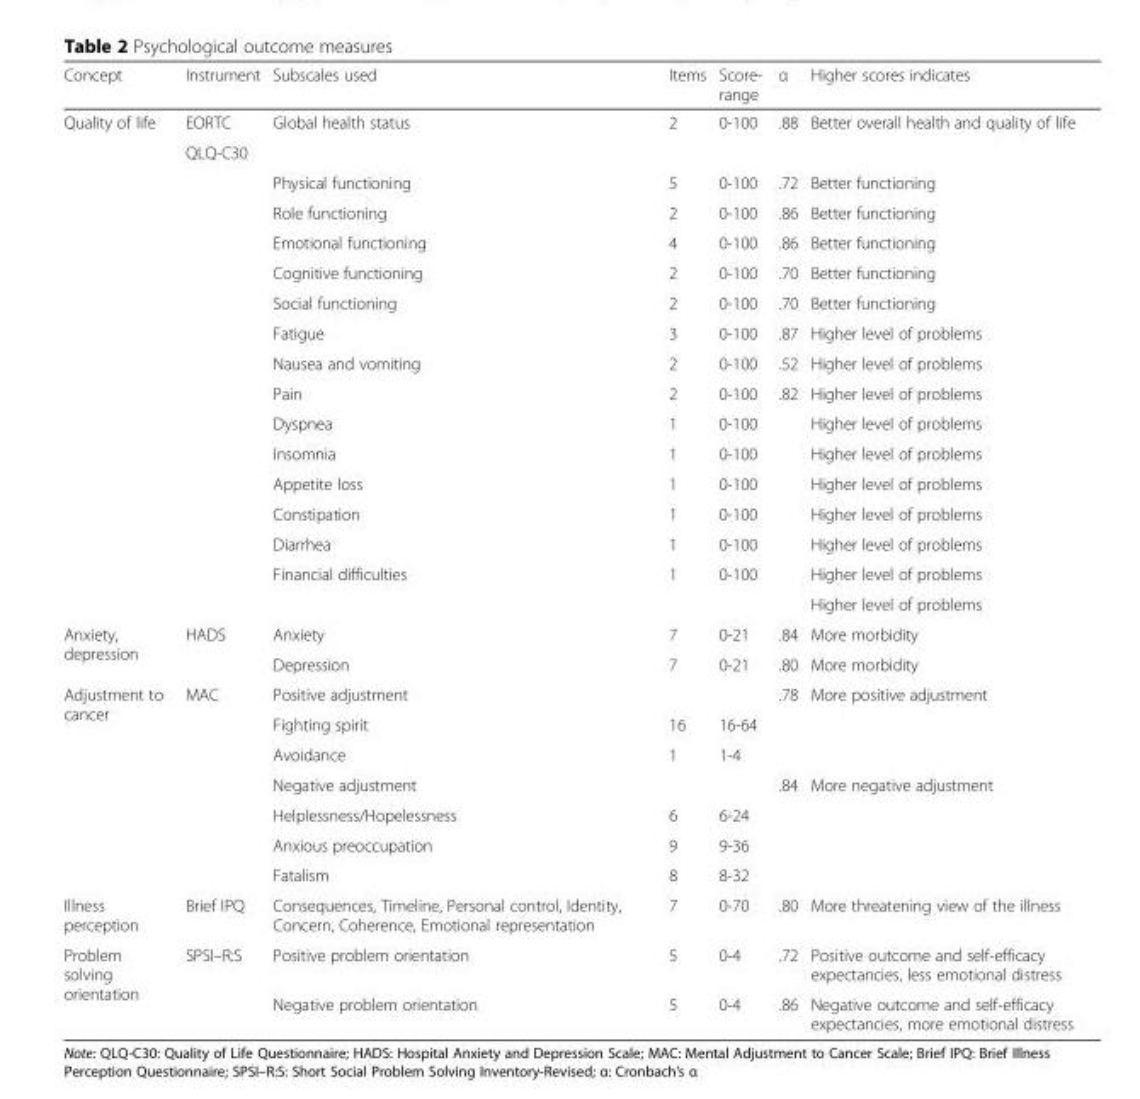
<table><thead><tr><td>Concept</td><td>Instrument</td><td>Subscales used</td><td>Items</td><td>Score- range</td><td>α</td><td>Higher scores indicates</td></tr></thead><tbody><tr><td rowspan="17">Quality of life</td><td>EORTC</td><td rowspan="2">Global health status</td><td rowspan="2">2</td><td rowspan="2">0-100</td><td rowspan="2">.88</td><td rowspan="2">Better overall health and quality of life</td></tr><tr><td>QLQ-C30</td></tr><tr><td rowspan="15"></td><td>Physical functioning</td><td>5</td><td>0-100</td><td>.72</td><td>Better functioning</td></tr><tr><td>Role functioning</td><td>2</td><td>0-100</td><td>.86</td><td>Better functioning</td></tr><tr><td>Emotional functioning</td><td>4</td><td>0-100</td><td>.86</td><td>Better functioning</td></tr><tr><td>Cognitive functioning</td><td>2</td><td>0-100</td><td>.70</td><td>Better functioning</td></tr><tr><td>Social functioning</td><td>2</td><td>0-100</td><td>.70</td><td>Better functioning</td></tr><tr><td>Fatigue</td><td>3</td><td>0-100</td><td>.87</td><td>Higher level of problems</td></tr><tr><td>Nausea and vomiting</td><td>2</td><td>0-100</td><td>.52</td><td>Higher level of problems</td></tr><tr><td>Pain</td><td>2</td><td>0-100</td><td>.82</td><td>Higher level of problems</td></tr><tr><td>Dyspnea</td><td>1</td><td>0-100</td><td></td><td>Higher level of problems</td></tr><tr><td>Insomnia</td><td>1</td><td>0-100</td><td></td><td>Higher level of problems</td></tr><tr><td>Appetite loss</td><td>1</td><td>0-100</td><td></td><td>Higher level of problems</td></tr><tr><td>Constipation</td><td>1</td><td>0-100</td><td></td><td>Higher level of problems</td></tr><tr><td>Diarrhea</td><td>1</td><td>0-100</td><td></td><td>Higher level of problems</td></tr><tr><td rowspan="2">Financial difficulties</td><td rowspan="2">1</td><td rowspan="2">0-100</td><td rowspan="2"></td><td>Higher level of problems</td></tr><tr><td>Higher level of problems</td></tr><tr><td rowspan="2">Anxiety, depression</td><td rowspan="2">HADS</td><td>Anxiety</td><td>7</td><td>0-21</td><td>.84</td><td>More morbidity</td></tr><tr><td>Depression</td><td>7</td><td>0-21</td><td>.80</td><td>More morbidity</td></tr><tr><td rowspan="7">Adjustment to cancer</td><td rowspan="7">MAC</td><td>Positive adjustment</td><td></td><td></td><td>.78</td><td>More positive adjustment</td></tr><tr><td>Fighting spirit</td><td>16</td><td>16-64</td><td></td><td></td></tr><tr><td>Avoidance</td><td>1</td><td>1-4</td><td></td><td></td></tr><tr><td>Negative adjustment</td><td></td><td></td><td>.84</td><td>More negative adjustment</td></tr><tr><td>Helplessness/Hopelessness</td><td>6</td><td>6-24</td><td rowspan="3"></td><td rowspan="3"></td></tr><tr><td>Anxious preoccupation</td><td>9</td><td>9-36</td></tr><tr><td>Fatalism</td><td>8</td><td>8-32</td></tr><tr><td>Illness perception</td><td>Brief IPQ</td><td>Consequences, Timeline, Personal control, Identity, Concern, Coherence, Emotional representation</td><td>7</td><td>0-70</td><td>.80</td><td>More threatening view of the illness</td></tr><tr><td rowspan="2">Problem solving orientation</td><td rowspan="2">SPSI–R:S</td><td>Positive problem orientation</td><td>5</td><td>0-4</td><td>.72</td><td>Positive outcome and self-efficacy expectancies, less emotional distress</td></tr><tr><td>Negative problem orientation</td><td>5</td><td>0-4</td><td>.86</td><td>Negative outcome and self-efficacy expectancies, more emotional distress</td></tr></tbody></table>